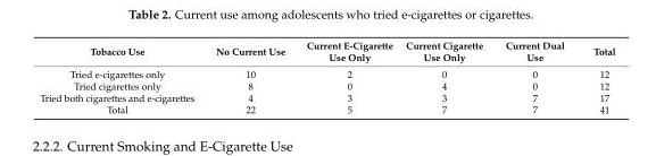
<table><thead><tr><td>Tobacco Use</td><td>No Current Use</td><td>Current E-Cigarette Use Only</td><td>Current Cigarette Use Only</td><td>Current Dual Use</td><td>Total</td></tr></thead><tbody><tr><td>Tried e-cigarettes only</td><td>10</td><td>2</td><td>0</td><td>0</td><td>12</td></tr><tr><td>Tried cigarettes only</td><td>8</td><td>0</td><td>4</td><td>0</td><td>12</td></tr><tr><td>Tried both cigarettes and e-cigarettes</td><td>4</td><td>3</td><td>3</td><td>7</td><td>17</td></tr><tr><td>Total</td><td>22</td><td>5</td><td>7</td><td>7</td><td>41</td></tr></tbody></table>